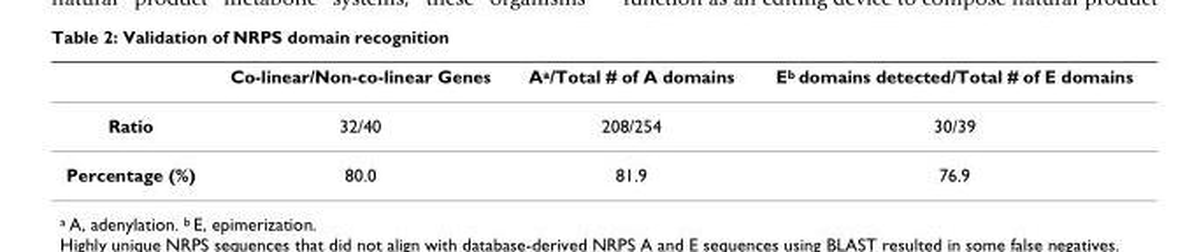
<table><thead><tr><td></td><td>Co-linear/Non-co-linear Genes</td><td>A<sup>a</sup>/Total # of A domains</td><td>E<sup>b</sup> domains detected/Total # of E domains</td></tr></thead><tbody><tr><td>Ratio</td><td>32/40</td><td>208/254</td><td>30/39</td></tr><tr><td>Percentage (%)</td><td>80.0</td><td>81.9</td><td>76.9</td></tr></tbody></table>